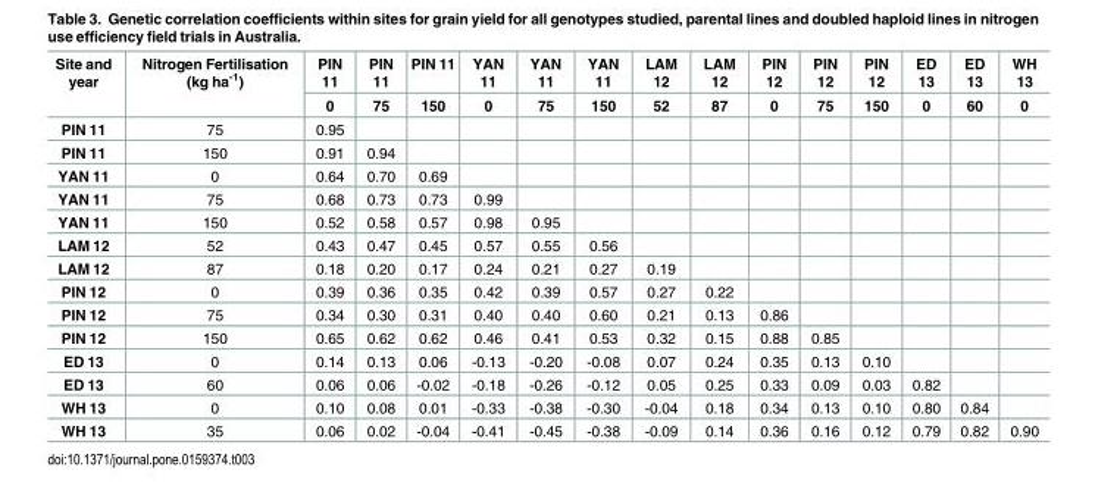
<table><thead><tr><td rowspan="2">Site and year</td><td rowspan="2">Nitrogen Fertilisation (kg ha<sup>-1</sup>)</td><td rowspan="2">PIN 11 0</td><td rowspan="2">PIN 11 75</td><td rowspan="2">PIN 11 150</td><td rowspan="2">YAN 11 0</td><td rowspan="2">YAN 11 75</td><td rowspan="2">YAN 11 150</td><td rowspan="2">LAM 12 52</td><td rowspan="2">LAM 12 87</td><td rowspan="2">PIN 12 0</td><td rowspan="2">PIN 12 75</td><td rowspan="2">PIN 12 150</td><td rowspan="2">ED 13 0</td><td rowspan="2">ED 13 60</td><td rowspan="2">WH 13 0</td></tr><tr></tr></thead><tbody><tr><td>PIN 11</td><td>75</td><td>0.95</td><td></td><td></td><td></td><td></td><td></td><td></td><td></td><td></td><td></td><td></td><td></td><td></td><td></td></tr><tr><td>PIN 11</td><td>150</td><td>0.91</td><td>0.94</td><td></td><td></td><td></td><td></td><td></td><td></td><td></td><td></td><td></td><td></td><td></td><td></td></tr><tr><td>YAN 11</td><td>0</td><td>0.64</td><td>0.70</td><td>0.69</td><td></td><td></td><td></td><td></td><td></td><td></td><td></td><td></td><td></td><td></td><td></td></tr><tr><td>YAN 11</td><td>75</td><td>0.68</td><td>0.73</td><td>0.73</td><td>0.99</td><td></td><td></td><td></td><td></td><td></td><td></td><td></td><td></td><td></td><td></td></tr><tr><td>YAN 11</td><td>150</td><td>0.52</td><td>0.58</td><td>0.57</td><td>0.98</td><td>0.95</td><td></td><td></td><td></td><td></td><td></td><td></td><td></td><td></td><td></td></tr><tr><td>LAM 12</td><td>52</td><td>0.43</td><td>0.47</td><td>0.45</td><td>0.57</td><td>0.55</td><td>0.56</td><td></td><td></td><td></td><td></td><td></td><td></td><td></td><td></td></tr><tr><td>LAM 12</td><td>87</td><td>0.18</td><td>0.20</td><td>0.17</td><td>0.24</td><td>0.21</td><td>0.27</td><td>0.19</td><td></td><td></td><td></td><td></td><td></td><td></td><td></td></tr><tr><td>PIN 12</td><td>0</td><td>0.39</td><td>0.36</td><td>0.35</td><td>0.42</td><td>0.39</td><td>0.57</td><td>0.27</td><td>0.22</td><td></td><td></td><td></td><td></td><td></td><td></td></tr><tr><td>PIN 12</td><td>75</td><td>0.34</td><td>0.30</td><td>0.31</td><td>0.40</td><td>0.40</td><td>0.60</td><td>0.21</td><td>0.13</td><td>0.86</td><td></td><td></td><td></td><td></td><td></td></tr><tr><td>PIN 12</td><td>150</td><td>0.65</td><td>0.62</td><td>0.62</td><td>0.46</td><td>0.41</td><td>0.53</td><td>0.32</td><td>0.15</td><td>0.88</td><td>0.85</td><td></td><td></td><td></td><td></td></tr><tr><td>ED 13</td><td>0</td><td>0.14</td><td>0.13</td><td>0.06</td><td>-0.13</td><td>-0.20</td><td>-0.08</td><td>0.07</td><td>0.24</td><td>0.35</td><td>0.13</td><td>0.10</td><td></td><td></td><td></td></tr><tr><td>ED 13</td><td>60</td><td>0.06</td><td>0.06</td><td>-0.02</td><td>-0.18</td><td>-0.26</td><td>-0.12</td><td>0.05</td><td>0.25</td><td>0.33</td><td>0.09</td><td>0.03</td><td>0.82</td><td></td><td></td></tr><tr><td>WH 13</td><td>0</td><td>0.10</td><td>0.08</td><td>0.01</td><td>-0.33</td><td>-0.38</td><td>-0.30</td><td>-0.04</td><td>0.18</td><td>0.34</td><td>0.13</td><td>0.10</td><td>0.80</td><td>0.84</td><td></td></tr><tr><td>WH 13</td><td>35</td><td>0.06</td><td>0.02</td><td>-0.04</td><td>-0.41</td><td>-0.45</td><td>-0.38</td><td>-0.09</td><td>0.14</td><td>0.36</td><td>0.16</td><td>0.12</td><td>0.79</td><td>0.82</td><td>0.90</td></tr></tbody></table>